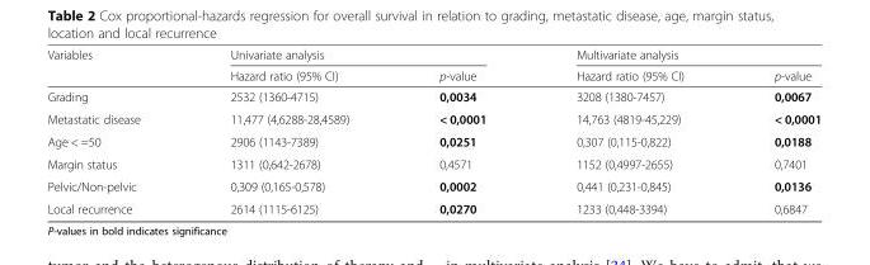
<table><thead><tr><td rowspan="2">Variables</td><td colspan="2">Univariate analysis</td><td colspan="2">Multivariate analysis</td></tr><tr><td>Hazard ratio (95% CI)</td><td>p-value</td><td>Hazard ratio (95% CI)</td><td>p-value</td></tr></thead><tbody><tr><td>Grading</td><td>2532 (1360-4715)</td><td>0,0034</td><td>3208 (1380-7457)</td><td>0,0067</td></tr><tr><td>Metastatic disease</td><td>11,477 (4,6288-28,4589)</td><td>&lt; 0,0001</td><td>14,763 (4819-45,229)</td><td>&lt; 0,0001</td></tr><tr><td>Age &lt; =50</td><td>2906 (1143-7389)</td><td>0,0251</td><td>0,307 (0,115-0,822)</td><td>0,0188</td></tr><tr><td>Margin status</td><td>1311 (0,642-2678)</td><td>0,4571</td><td>1152 (0,4997-2655)</td><td>0,7401</td></tr><tr><td>Pelvic/Non-pelvic</td><td>0,309 (0,165-0,578)</td><td>0,0002</td><td>0,441 (0,231-0,845)</td><td>0,0136</td></tr><tr><td>Local recurrence</td><td>2614 (1115-6125)</td><td>0,0270</td><td>1233 (0,448-3394)</td><td>0,6847</td></tr></tbody></table>